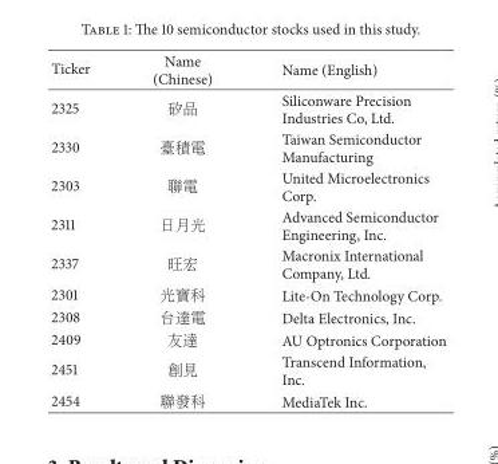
<table><thead><tr><td>Ticker</td><td>Name (Chinese)</td><td>Name (English)</td></tr></thead><tbody><tr><td>2325</td><td>矽品</td><td>Siliconware Precision Industries Co, Ltd.</td></tr><tr><td>2330</td><td>臺積電</td><td>Taiwan Semiconductor Manufacturing</td></tr><tr><td>2303</td><td>聯電</td><td>United Microelectronics Corp.</td></tr><tr><td>2311</td><td>日月光</td><td>Advanced Semiconductor Engineering, Inc.</td></tr><tr><td>2337</td><td>旺宏</td><td>Macronix International Company, Ltd.</td></tr><tr><td>2301</td><td>光寶科</td><td>Lite-On Technology Corp.</td></tr><tr><td>2308</td><td>台達電</td><td>Delta Electronics, Inc.</td></tr><tr><td>2409</td><td>友達</td><td>AU Optronics Corporation</td></tr><tr><td>2451</td><td>創見</td><td>Transcend Information, Inc.</td></tr><tr><td>2454</td><td>聯發科</td><td>MediaTek Inc.</td></tr></tbody></table>